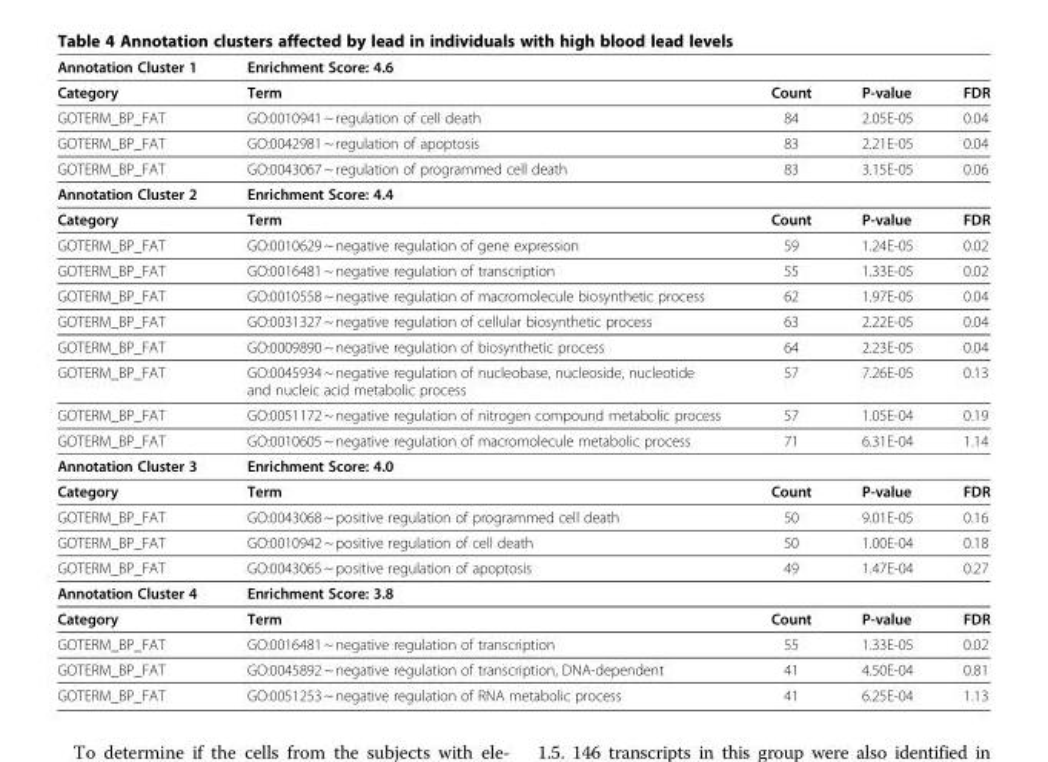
<table><thead><tr><td>Annotation Cluster 1</td><td>Enrichment Score: 4.6</td><td></td><td></td><td></td></tr></thead><tbody><tr><td>Category</td><td>Term</td><td>Count</td><td>P-value</td><td>FDR</td></tr><tr><td>GOTERM_BP_FAT</td><td>GO:0010941 ~ regulation of cell death</td><td>84</td><td>2.05E-05</td><td>0.04</td></tr><tr><td>GOTERM_BP_FAT</td><td>GO:0042981 ~ regulation of apoptosis</td><td>83</td><td>2.21E-05</td><td>0.04</td></tr><tr><td>GOTERM_BP_FAT</td><td>GO:0043067 ~ regulation of programmed cell death</td><td>83</td><td>3.15E-05</td><td>0.06</td></tr><tr><td>Annotation Cluster 2</td><td>Enrichment Score: 4.4</td><td></td><td></td><td></td></tr><tr><td>Category</td><td>Term</td><td>Count</td><td>P-value</td><td>FDR</td></tr><tr><td>GOTERM_BP_FAT</td><td>GO:0010629 ~ negative regulation of gene expression</td><td>59</td><td>1.24E-05</td><td>0.02</td></tr><tr><td>GOTERM_BP_FAT</td><td>GO:0016481 ~ negative regulation of transcription</td><td>55</td><td>1.33E-05</td><td>0.02</td></tr><tr><td>GOTERM_BP_FAT</td><td>GO:0010558 ~ negative regulation of macromolecule biosynthetic process</td><td>62</td><td>1.97E-05</td><td>0.04</td></tr><tr><td>GOTERM_BP_FAT</td><td>GO:0031327 ~ negative regulation of cellular biosynthetic process</td><td>63</td><td>2.22E-05</td><td>0.04</td></tr><tr><td>GOTERM_BP_FAT</td><td>GO:0009890 ~ negative regulation of biosynthetic process</td><td>64</td><td>2.23E-05</td><td>0.04</td></tr><tr><td>GOTERM_BP_FAT</td><td>GO:0045934 ~ negative regulation of nucleobase, nucleoside, nucleotide and nucleic acid metabolic process</td><td>57</td><td>7.26E-05</td><td>0.13</td></tr><tr><td>GOTERM_BP_FAT</td><td>GO:0051172 ~ negative regulation of nitrogen compound metabolic process</td><td>57</td><td>1.05E-04</td><td>0.19</td></tr><tr><td>GOTERM_BP_FAT</td><td>GO:0010605 ~ negative regulation of macromolecule metabolic process</td><td>71</td><td>6.31E-04</td><td>1.14</td></tr><tr><td>Annotation Cluster 3</td><td>Enrichment Score: 4.0</td><td></td><td></td><td></td></tr><tr><td>Category</td><td>Term</td><td>Count</td><td>P-value</td><td>FDR</td></tr><tr><td>GOTERM_BP_FAT</td><td>GO:0043068 ~ positive regulation of programmed cell death</td><td>50</td><td>9.01E-05</td><td>0.16</td></tr><tr><td>GOTERM_BP_FAT</td><td>GO:0010942 ~ positive regulation of cell death</td><td>50</td><td>1.00E-04</td><td>0.18</td></tr><tr><td>GOTERM_BP_FAT</td><td>GO:0043065 ~ positive regulation of apoptosis</td><td>49</td><td>1.47E-04</td><td>0.27</td></tr><tr><td>Annotation Cluster 4</td><td>Enrichment Score: 3.8</td><td></td><td></td><td></td></tr><tr><td>Category</td><td>Term</td><td>Count</td><td>P-value</td><td>FDR</td></tr><tr><td>GOTERM_BP_FAT</td><td>GO:0016481 ~ negative regulation of transcription</td><td>55</td><td>1.33E-05</td><td>0.02</td></tr><tr><td>GOTERM_BP_FAT</td><td>GO:0045892 ~ negative regulation of transcription, DNA-dependent</td><td>41</td><td>4.50E-04</td><td>0.81</td></tr><tr><td>GOTERM_BP_FAT</td><td>GO:0051253 ~ negative regulation of RNA metabolic process</td><td>41</td><td>6.25E-04</td><td>1.13</td></tr></tbody></table>